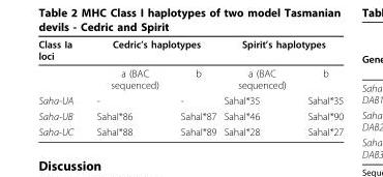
<table><thead><tr><td rowspan="2">Class Ia loci</td><td colspan="2">Cedric’s haplotypes</td><td colspan="2">Spirit’s haplotypes</td></tr><tr><td>a (BAC sequenced)</td><td>b</td><td>a (BAC sequenced)</td><td>b</td></tr></thead><tbody><tr><td>Saha-UA</td><td>-</td><td>-</td><td>SahaI*35</td><td>SahaI*35</td></tr><tr><td>Saha-UB</td><td>SahaI*86</td><td>SahaI*87</td><td>SahaI*46</td><td>SahaI*90</td></tr><tr><td>Saha-UC</td><td>SahaI*88</td><td>SahaI*89</td><td>SahaI*28</td><td>SahaI*27</td></tr></tbody></table>